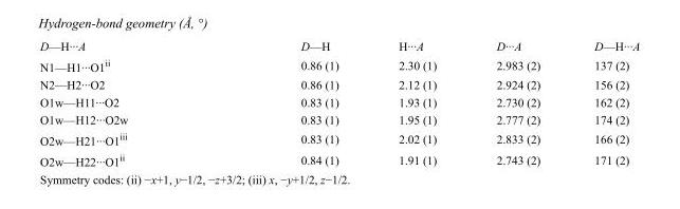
<table><tbody><tr><td>D—H···A</td><td>D—H</td><td>H···A</td><td>D···A</td><td>D—H···A</td></tr><tr><td>N1—H1···O1<sup>ii</sup></td><td>0.86 (1)</td><td>2.30 (1)</td><td>2.983 (2)</td><td>137 (2)</td></tr><tr><td>N2—H2···O2</td><td>0.86 (1)</td><td>2.12 (1)</td><td>2.924 (2)</td><td>156 (2)</td></tr><tr><td>O1w—H11···O2</td><td>0.83 (1)</td><td>1.93 (1)</td><td>2.730 (2)</td><td>162 (2)</td></tr><tr><td>O1w—H12···O2w</td><td>0.83 (1)</td><td>1.95 (1)</td><td>2.777 (2)</td><td>174 (2)</td></tr><tr><td>O2w—H21···O1<sup>iii</sup></td><td>0.83 (1)</td><td>2.02 (1)</td><td>2.833 (2)</td><td>166 (2)</td></tr><tr><td>O2w—H22···O1<sup>ii</sup></td><td>0.84 (1)</td><td>1.91 (1)</td><td>2.743 (2)</td><td>171 (2)</td></tr></tbody></table>